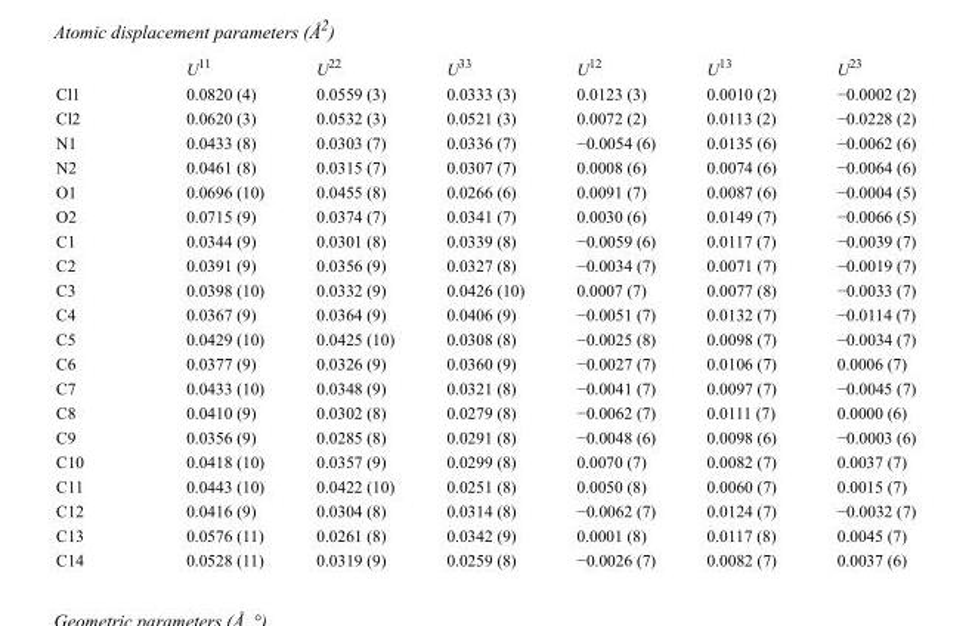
<table><thead><tr><td></td><td>U<sup>11</sup></td><td>U<sup>22</sup></td><td>U<sup>33</sup></td><td>U<sup>12</sup></td><td>U<sup>13</sup></td><td>U<sup>23</sup></td></tr></thead><tbody><tr><td>Cl1</td><td>0.0820 (4)</td><td>0.0559 (3)</td><td>0.0333 (3)</td><td>0.0123 (3)</td><td>0.0010 (2)</td><td>−0.0002 (2)</td></tr><tr><td>Cl2</td><td>0.0620 (3)</td><td>0.0532 (3)</td><td>0.0521 (3)</td><td>0.0072 (2)</td><td>0.0113 (2)</td><td>−0.0228 (2)</td></tr><tr><td>N1</td><td>0.0433 (8)</td><td>0.0303 (7)</td><td>0.0336 (7)</td><td>−0.0054 (6)</td><td>0.0135 (6)</td><td>−0.0062 (6)</td></tr><tr><td>N2</td><td>0.0461 (8)</td><td>0.0315 (7)</td><td>0.0307 (7)</td><td>0.0008 (6)</td><td>0.0074 (6)</td><td>−0.0064 (6)</td></tr><tr><td>O1</td><td>0.0696 (10)</td><td>0.0455 (8)</td><td>0.0266 (6)</td><td>0.0091 (7)</td><td>0.0087 (6)</td><td>−0.0004 (5)</td></tr><tr><td>O2</td><td>0.0715 (9)</td><td>0.0374 (7)</td><td>0.0341 (7)</td><td>0.0030 (6)</td><td>0.0149 (7)</td><td>−0.0066 (5)</td></tr><tr><td>C1</td><td>0.0344 (9)</td><td>0.0301 (8)</td><td>0.0339 (8)</td><td>−0.0059 (6)</td><td>0.0117 (7)</td><td>−0.0039 (7)</td></tr><tr><td>C2</td><td>0.0391 (9)</td><td>0.0356 (9)</td><td>0.0327 (8)</td><td>−0.0034 (7)</td><td>0.0071 (7)</td><td>−0.0019 (7)</td></tr><tr><td>C3</td><td>0.0398 (10)</td><td>0.0332 (9)</td><td>0.0426 (10)</td><td>0.0007 (7)</td><td>0.0077 (8)</td><td>−0.0033 (7)</td></tr><tr><td>C4</td><td>0.0367 (9)</td><td>0.0364 (9)</td><td>0.0406 (9)</td><td>−0.0051 (7)</td><td>0.0132 (7)</td><td>−0.0114 (7)</td></tr><tr><td>C5</td><td>0.0429 (10)</td><td>0.0425 (10)</td><td>0.0308 (8)</td><td>−0.0025 (8)</td><td>0.0098 (7)</td><td>−0.0034 (7)</td></tr><tr><td>C6</td><td>0.0377 (9)</td><td>0.0326 (9)</td><td>0.0360 (9)</td><td>−0.0027 (7)</td><td>0.0106 (7)</td><td>0.0006 (7)</td></tr><tr><td>C7</td><td>0.0433 (10)</td><td>0.0348 (9)</td><td>0.0321 (8)</td><td>−0.0041 (7)</td><td>0.0097 (7)</td><td>−0.0045 (7)</td></tr><tr><td>C8</td><td>0.0410 (9)</td><td>0.0302 (8)</td><td>0.0279 (8)</td><td>−0.0062 (7)</td><td>0.0111 (7)</td><td>0.0000 (6)</td></tr><tr><td>C9</td><td>0.0356 (9)</td><td>0.0285 (8)</td><td>0.0291 (8)</td><td>−0.0048 (6)</td><td>0.0098 (6)</td><td>−0.0003 (6)</td></tr><tr><td>C10</td><td>0.0418 (10)</td><td>0.0357 (9)</td><td>0.0299 (8)</td><td>0.0070 (7)</td><td>0.0082 (7)</td><td>0.0037 (7)</td></tr><tr><td>C11</td><td>0.0443 (10)</td><td>0.0422 (10)</td><td>0.0251 (8)</td><td>0.0050 (8)</td><td>0.0060 (7)</td><td>0.0015 (7)</td></tr><tr><td>C12</td><td>0.0416 (9)</td><td>0.0304 (8)</td><td>0.0314 (8)</td><td>−0.0062 (7)</td><td>0.0124 (7)</td><td>−0.0032 (7)</td></tr><tr><td>C13</td><td>0.0576 (11)</td><td>0.0261 (8)</td><td>0.0342 (9)</td><td>0.0001 (8)</td><td>0.0117 (8)</td><td>0.0045 (7)</td></tr><tr><td>C14</td><td>0.0528 (11)</td><td>0.0319 (9)</td><td>0.0259 (8)</td><td>−0.0026 (7)</td><td>0.0082 (7)</td><td>0.0037 (6)</td></tr></tbody></table>